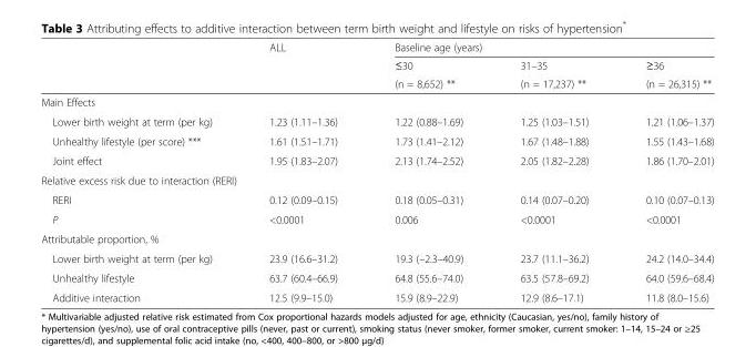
<table><thead><tr><td rowspan="3"></td><td rowspan="3">ALL</td><td colspan="3">Baseline age (years)</td></tr><tr><td rowspan="2">≤30 (n = 8,652) **</td><td rowspan="2">31–35 (n = 17,237) **</td><td rowspan="2">≥36 (n = 26,315) **</td></tr><tr></tr></thead><tbody><tr><td colspan="5">Main Effects</td></tr><tr><td>Lower birth weight at term (per kg)</td><td>1.23 (1.11–1.36)</td><td>1.22 (0.88–1.69)</td><td>1.25 (1.03–1.51)</td><td>1.21 (1.06–1.37)</td></tr><tr><td>Unhealthy lifestyle (per score) ***</td><td>1.61 (1.51–1.71)</td><td>1.73 (1.41–2.12)</td><td>1.67 (1.48–1.88)</td><td>1.55 (1.43–1.68)</td></tr><tr><td>Joint effect</td><td>1.95 (1.83–2.07)</td><td>2.13 (1.74–2.52)</td><td>2.05 (1.82–2.28)</td><td>1.86 (1.70–2.01)</td></tr><tr><td colspan="5">Relative excess risk due to interaction (RERI)</td></tr><tr><td>RERI</td><td>0.12 (0.09–0.15)</td><td>0.18 (0.05–0.31)</td><td>0.14 (0.07–0.20)</td><td>0.10 (0.07–0.13)</td></tr><tr><td>P</td><td>&lt;0.0001</td><td>0.006</td><td>&lt;0.0001</td><td>&lt;0.0001</td></tr><tr><td colspan="5">Attributable proportion, %</td></tr><tr><td>Lower birth weight at term (per kg)</td><td>23.9 (16.6–31.2)</td><td>19.3 (–2.3–40.9)</td><td>23.7 (11.1–36.2)</td><td>24.2 (14.0–34.4)</td></tr><tr><td>Unhealthy lifestyle</td><td>63.7 (60.4–66.9)</td><td>64.8 (55.6–74.0)</td><td>63.5 (57.8–69.2)</td><td>64.0 (59.6–68.4)</td></tr><tr><td>Additive interaction</td><td>12.5 (9.9–15.0)</td><td>15.9 (8.9–22.9)</td><td>12.9 (8.6–17.1)</td><td>11.8 (8.0–15.6)</td></tr></tbody></table>